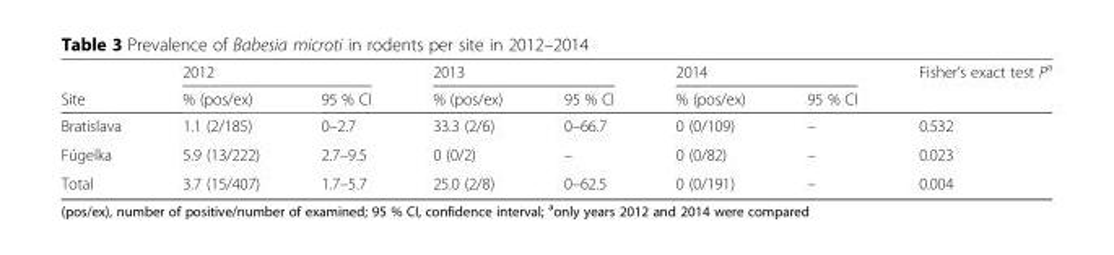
<table><thead><tr><td rowspan="2">Site</td><td colspan="2">2012</td><td colspan="2">2013</td><td colspan="2">2014</td><td rowspan="2">Fisher’s exact test P<sup>a</sup></td></tr><tr><td>% (pos/ex)</td><td>95 % CI</td><td>% (pos/ex)</td><td>95 % CI</td><td>% (pos/ex)</td><td>95 % CI</td></tr></thead><tbody><tr><td>Bratislava</td><td>1.1 (2/185)</td><td>0–2.7</td><td>33.3 (2/6)</td><td>0–66.7</td><td>0 (0/109)</td><td>–</td><td>0.532</td></tr><tr><td>Fúgelka</td><td>5.9 (13/222)</td><td>2.7–9.5</td><td>0 (0/2)</td><td>–</td><td>0 (0/82)</td><td>–</td><td>0.023</td></tr><tr><td>Total</td><td>3.7 (15/407)</td><td>1.7–5.7</td><td>25.0 (2/8)</td><td>0–62.5</td><td>0 (0/191)</td><td>–</td><td>0.004</td></tr></tbody></table>